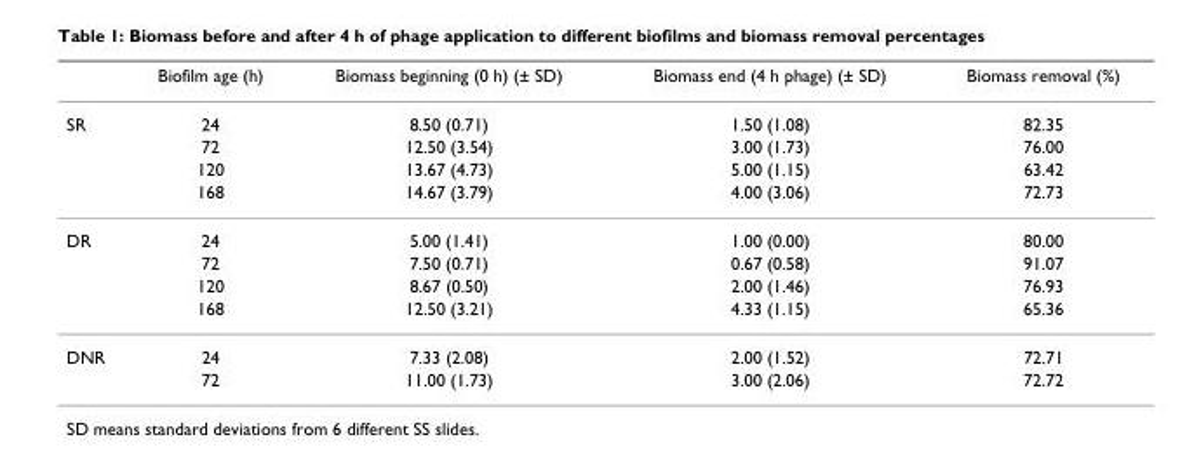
<table><thead><tr><td></td><td>Biofilm age (h)</td><td>Biomass beginning (0 h) (± SD)</td><td>Biomass end (4 h phage) (± SD)</td><td>Biomass removal (%)</td></tr></thead><tbody><tr><td rowspan="4">SR</td><td>24</td><td>8.50 (0.71)</td><td>1.50 (1.08)</td><td>82.35</td></tr><tr><td>72</td><td>12.50 (3.54)</td><td>3.00 (1.73)</td><td>76.00</td></tr><tr><td>120</td><td>13.67 (4.73)</td><td>5.00 (1.15)</td><td>63.42</td></tr><tr><td>168</td><td>14.67 (3.79)</td><td>4.00 (3.06)</td><td>72.73</td></tr><tr><td rowspan="4">DR</td><td>24</td><td>5.00 (1.41)</td><td>1.00 (0.00)</td><td>80.00</td></tr><tr><td>72</td><td>7.50 (0.71)</td><td>0.67 (0.58)</td><td>91.07</td></tr><tr><td>120</td><td>8.67 (0.50)</td><td>2.00 (1.46)</td><td>76.93</td></tr><tr><td>168</td><td>12.50 (3.21)</td><td>4.33 (1.15)</td><td>65.36</td></tr><tr><td rowspan="2">DNR</td><td>24</td><td>7.33 (2.08)</td><td>2.00 (1.52)</td><td>72.71</td></tr><tr><td>72</td><td>11.00 (1.73)</td><td>3.00 (2.06)</td><td>72.72</td></tr></tbody></table>